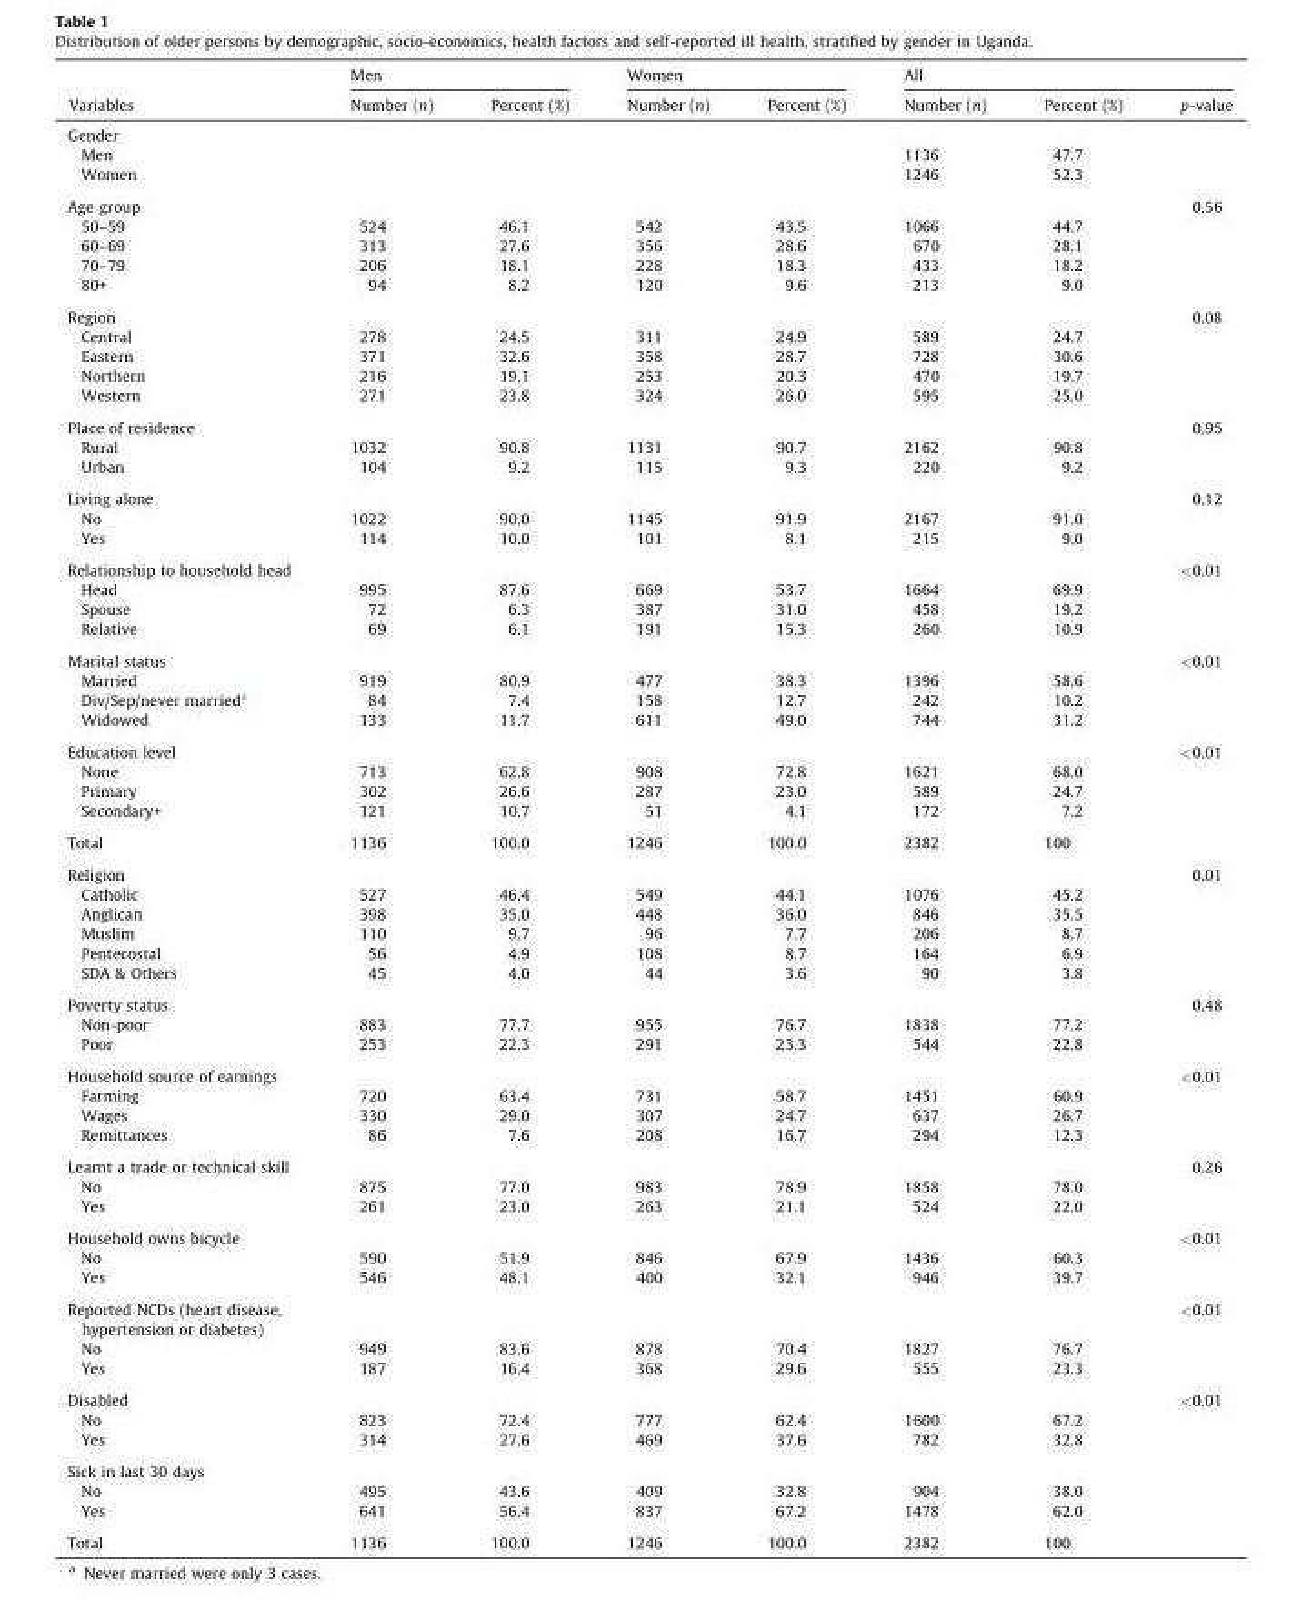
<table><thead><tr><td rowspan="2">Variables</td><td colspan="2">Men</td><td colspan="2">Women</td><td colspan="3">All</td></tr><tr><td>Number (n)</td><td>Percent (%)</td><td>Number (n)</td><td>Percent (%)</td><td>Number (n)</td><td>Percent (%)</td><td>p-value</td></tr></thead><tbody><tr><td colspan="8">Gender</td></tr><tr><td>Men</td><td></td><td></td><td></td><td></td><td>1136</td><td>47.7</td><td></td></tr><tr><td>Women</td><td></td><td></td><td></td><td></td><td>1246</td><td>52.3</td><td></td></tr><tr><td>Age group</td><td></td><td></td><td></td><td></td><td></td><td></td><td>0.56</td></tr><tr><td>50–59</td><td>524</td><td>46.1</td><td>542</td><td>43.5</td><td>1066</td><td>44.7</td><td></td></tr><tr><td>60–69</td><td>313</td><td>27.6</td><td>356</td><td>28.6</td><td>670</td><td>28.1</td><td></td></tr><tr><td>70–79</td><td>206</td><td>18.1</td><td>228</td><td>18.3</td><td>433</td><td>18.2</td><td></td></tr><tr><td>80+</td><td>94</td><td>8.2</td><td>120</td><td>9.6</td><td>213</td><td>9.0</td><td></td></tr><tr><td>Region</td><td></td><td></td><td></td><td></td><td></td><td></td><td>0.08</td></tr><tr><td>Central</td><td>278</td><td>24.5</td><td>311</td><td>24.9</td><td>589</td><td>24.7</td><td></td></tr><tr><td>Eastern</td><td>371</td><td>32.6</td><td>358</td><td>28.7</td><td>728</td><td>30.6</td><td></td></tr><tr><td>Northern</td><td>216</td><td>19.1</td><td>253</td><td>20.3</td><td>470</td><td>19.7</td><td></td></tr><tr><td>Western</td><td>271</td><td>23.8</td><td>324</td><td>26.0</td><td>595</td><td>25.0</td><td></td></tr><tr><td>Place of residence</td><td></td><td></td><td></td><td></td><td></td><td></td><td>0.95</td></tr><tr><td>Rural</td><td>1032</td><td>90.8</td><td>1131</td><td>90.7</td><td>2162</td><td>90.8</td><td></td></tr><tr><td>Urban</td><td>104</td><td>9.2</td><td>115</td><td>9.3</td><td>220</td><td>9.2</td><td></td></tr><tr><td>Living alone</td><td></td><td></td><td></td><td></td><td></td><td></td><td>0.12</td></tr><tr><td>No</td><td>1022</td><td>90.0</td><td>1145</td><td>91.9</td><td>2167</td><td>91.0</td><td></td></tr><tr><td>Yes</td><td>114</td><td>10.0</td><td>101</td><td>8.1</td><td>215</td><td>9.0</td><td></td></tr><tr><td>Relationship to household head</td><td></td><td></td><td></td><td></td><td></td><td></td><td>&lt;0.01</td></tr><tr><td>Head</td><td>995</td><td>87.6</td><td>669</td><td>53.7</td><td>1664</td><td>69.9</td><td></td></tr><tr><td>Spouse</td><td>72</td><td>6.3</td><td>387</td><td>31.0</td><td>458</td><td>19.2</td><td></td></tr><tr><td>Relative</td><td>69</td><td>6.1</td><td>191</td><td>15.3</td><td>260</td><td>10.9</td><td></td></tr><tr><td>Marital status</td><td></td><td></td><td></td><td></td><td></td><td></td><td>&lt;0.01</td></tr><tr><td>Married</td><td>919</td><td>80.9</td><td>477</td><td>38.3</td><td>1396</td><td>58.6</td><td></td></tr><tr><td>Div/Sep/never married<sup>a</sup></td><td>84</td><td>7.4</td><td>158</td><td>12.7</td><td>242</td><td>10.2</td><td></td></tr><tr><td>Widowed</td><td>133</td><td>11.7</td><td>611</td><td>49.0</td><td>744</td><td>31.2</td><td></td></tr><tr><td>Education level</td><td></td><td></td><td></td><td></td><td></td><td></td><td>&lt;0.01</td></tr><tr><td>None</td><td>713</td><td>62.8</td><td>908</td><td>72.8</td><td>1621</td><td>68.0</td><td></td></tr><tr><td>Primary</td><td>302</td><td>26.6</td><td>287</td><td>23.0</td><td>589</td><td>24.7</td><td></td></tr><tr><td>Secondary+</td><td>121</td><td>10.7</td><td>51</td><td>4.1</td><td>172</td><td>7.2</td><td></td></tr><tr><td>Total</td><td>1136</td><td>100.0</td><td>1246</td><td>100.0</td><td>2382</td><td>100</td><td></td></tr><tr><td>Religion</td><td></td><td></td><td></td><td></td><td></td><td></td><td>0.01</td></tr><tr><td>Catholic</td><td>527</td><td>46.4</td><td>549</td><td>44.1</td><td>1076</td><td>45.2</td><td></td></tr><tr><td>Anglican</td><td>398</td><td>35.0</td><td>448</td><td>36.0</td><td>846</td><td>35.5</td><td></td></tr><tr><td>Muslim</td><td>110</td><td>9.7</td><td>96</td><td>7.7</td><td>206</td><td>8.7</td><td></td></tr><tr><td>Pentecostal</td><td>56</td><td>4.9</td><td>108</td><td>8.7</td><td>164</td><td>6.9</td><td></td></tr><tr><td>SDA &amp; Others</td><td>45</td><td>4.0</td><td>44</td><td>3.6</td><td>90</td><td>3.8</td><td></td></tr><tr><td>Poverty status</td><td></td><td></td><td></td><td></td><td></td><td></td><td>0.48</td></tr><tr><td>Non-poor</td><td>883</td><td>77.7</td><td>955</td><td>76.7</td><td>1838</td><td>77.2</td><td></td></tr><tr><td>Poor</td><td>253</td><td>22.3</td><td>291</td><td>23.3</td><td>544</td><td>22.8</td><td></td></tr><tr><td>Household source of earnings</td><td></td><td></td><td></td><td></td><td></td><td></td><td>&lt;0.01</td></tr><tr><td>Farming</td><td>720</td><td>63.4</td><td>731</td><td>58.7</td><td>1451</td><td>60.9</td><td></td></tr><tr><td>Wages</td><td>330</td><td>29.0</td><td>307</td><td>24.7</td><td>637</td><td>26.7</td><td></td></tr><tr><td>Remittances</td><td>86</td><td>7.6</td><td>208</td><td>16.7</td><td>294</td><td>12.3</td><td></td></tr><tr><td>Learnt a trade or technical skill</td><td></td><td></td><td></td><td></td><td></td><td></td><td>0.26</td></tr><tr><td>No</td><td>875</td><td>77.0</td><td>983</td><td>78.9</td><td>1858</td><td>78.0</td><td></td></tr><tr><td>Yes</td><td>261</td><td>23.0</td><td>263</td><td>21.1</td><td>524</td><td>22.0</td><td></td></tr><tr><td>Household owns bicycle</td><td></td><td></td><td></td><td></td><td></td><td></td><td>&lt;0.01</td></tr><tr><td>No</td><td>590</td><td>51.9</td><td>846</td><td>67.9</td><td>1436</td><td>60.3</td><td></td></tr><tr><td>Yes</td><td>546</td><td>48.1</td><td>400</td><td>32.1</td><td>946</td><td>39.7</td><td></td></tr><tr><td>Reported NCDs (heart disease, hypertension or diabetes)</td><td></td><td></td><td></td><td></td><td></td><td></td><td>&lt;0.01</td></tr><tr><td>No</td><td>949</td><td>83.6</td><td>878</td><td>70.4</td><td>1827</td><td>76.7</td><td></td></tr><tr><td>Yes</td><td>187</td><td>16.4</td><td>368</td><td>29.6</td><td>555</td><td>23.3</td><td></td></tr><tr><td>Disabled</td><td></td><td></td><td></td><td></td><td></td><td></td><td>&lt;0.01</td></tr><tr><td>No</td><td>823</td><td>72.4</td><td>777</td><td>62.4</td><td>1600</td><td>67.2</td><td></td></tr><tr><td>Yes</td><td>314</td><td>27.6</td><td>469</td><td>37.6</td><td>782</td><td>32.8</td><td></td></tr><tr><td colspan="8">Sick in last 30 days</td></tr><tr><td>No</td><td>495</td><td>43.6</td><td>409</td><td>32.8</td><td>904</td><td>38.0</td><td></td></tr><tr><td>Yes</td><td>641</td><td>56.4</td><td>837</td><td>67.2</td><td>1478</td><td>62.0</td><td></td></tr><tr><td>Total</td><td>1136</td><td>100.0</td><td>1246</td><td>100.0</td><td>2382</td><td>100</td><td></td></tr></tbody></table>